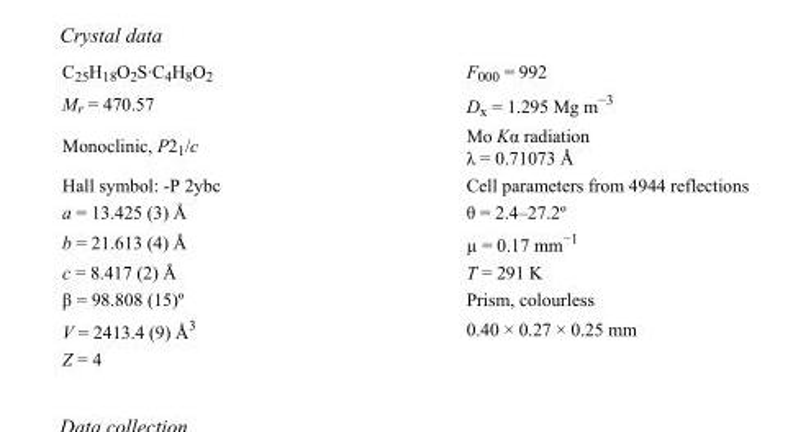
<table><tbody><tr><td>C<sub>25</sub>H<sub>18</sub>O<sub>2</sub>S·C<sub>4</sub>H<sub>8</sub>O<sub>2</sub></td><td>F000 = 992</td></tr><tr><td>M<sub>r</sub> = 470.57</td><td>D<sub>x</sub> = 1.295 Mg m<sup>−3</sup></td></tr><tr><td>Monoclinic, P2<sub>1</sub>/c</td><td>Mo Kα radiation λ = 0.71073 Å</td></tr><tr><td>Hall symbol: -P 2ybc</td><td>Cell parameters from 4944 reflections</td></tr><tr><td>a = 13.425 (3) Å</td><td>θ = 2.4–27.2º</td></tr><tr><td>b = 21.613 (4) Å</td><td>µ = 0.17 mm<sup>−1</sup></td></tr><tr><td>c = 8.417 (2) Å</td><td>T = 291 K</td></tr><tr><td>β = 98.808 (15)º</td><td>Prism, colourless</td></tr><tr><td>V = 2413.4 (9) Å<sup>3</sup></td><td>0.40 × 0.27 × 0.25 mm</td></tr><tr><td>Z = 4</td><td></td></tr></tbody></table>